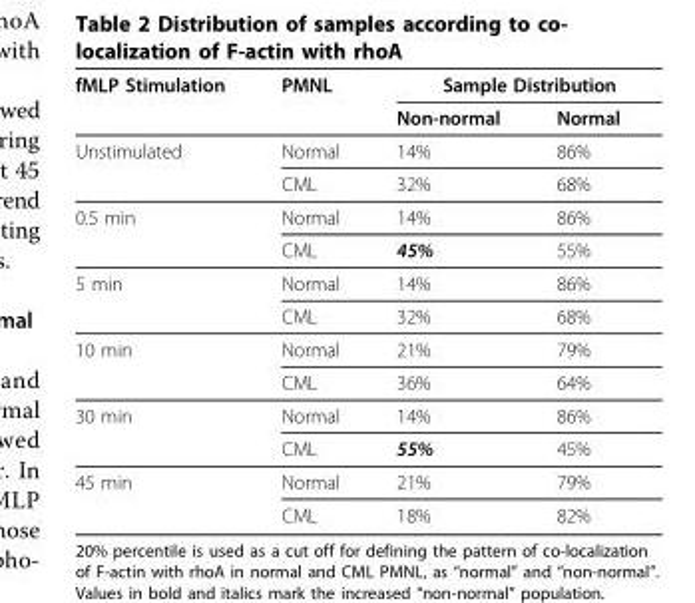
<table><thead><tr><td rowspan="2">fMLP Stimulation</td><td rowspan="2">PMNL</td><td colspan="2">Sample Distribution</td></tr><tr><td>Non-normal</td><td>Normal</td></tr></thead><tbody><tr><td rowspan="2">Unstimulated</td><td>Normal</td><td>14%</td><td>86%</td></tr><tr><td>CML</td><td>32%</td><td>68%</td></tr><tr><td rowspan="2">0.5 min</td><td>Normal</td><td>14%</td><td>86%</td></tr><tr><td>CML</td><td>45%</td><td>55%</td></tr><tr><td rowspan="2">5 min</td><td>Normal</td><td>14%</td><td>86%</td></tr><tr><td>CML</td><td>32%</td><td>68%</td></tr><tr><td rowspan="2">10 min</td><td>Normal</td><td>21%</td><td>79%</td></tr><tr><td>CML</td><td>36%</td><td>64%</td></tr><tr><td rowspan="2">30 min</td><td>Normal</td><td>14%</td><td>86%</td></tr><tr><td>CML</td><td>55%</td><td>45%</td></tr><tr><td rowspan="2">45 min</td><td>Normal</td><td>21%</td><td>79%</td></tr><tr><td>CML</td><td>18%</td><td>82%</td></tr></tbody></table>